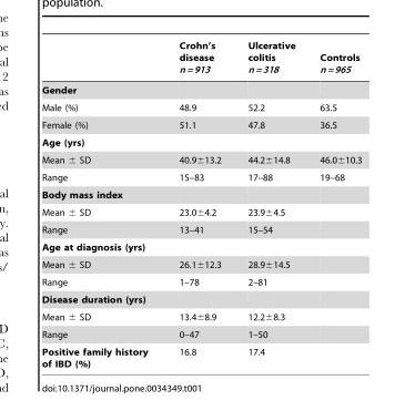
<table><thead><tr><td></td><td>Crohn’s disease n = 913</td><td>Ulcerative colitis n = 318</td><td>Controls n = 965</td></tr></thead><tbody><tr><td colspan="4">Gender</td></tr><tr><td>Male (%)</td><td>48.9</td><td>52.2</td><td>63.5</td></tr><tr><td>Female (%)</td><td>51.1</td><td>47.8</td><td>36.5</td></tr><tr><td colspan="4">Age (yrs)</td></tr><tr><td>Mean ± SD</td><td>40.9±13.2</td><td>44.2±14.8</td><td>46.0±10.3</td></tr><tr><td>Range</td><td>15–83</td><td>17–88</td><td>19–68</td></tr><tr><td colspan="4">Body mass index</td></tr><tr><td>Mean ± SD</td><td>23.0±4.2</td><td>23.9±4.5</td><td></td></tr><tr><td>Range</td><td>13–41</td><td>15–54</td><td></td></tr><tr><td colspan="4">Age at diagnosis (yrs)</td></tr><tr><td>Mean ± SD</td><td>26.1±12.3</td><td>28.9±14.5</td><td></td></tr><tr><td>Range</td><td>1–78</td><td>2–81</td><td></td></tr><tr><td colspan="4">Disease duration (yrs)</td></tr><tr><td>Mean ± SD</td><td>13.4±8.9</td><td>12.2±8.3</td><td></td></tr><tr><td>Range</td><td>0–47</td><td>1–50</td><td></td></tr><tr><td>Positive family history of IBD (%)</td><td>16.8</td><td>17.4</td><td></td></tr></tbody></table>